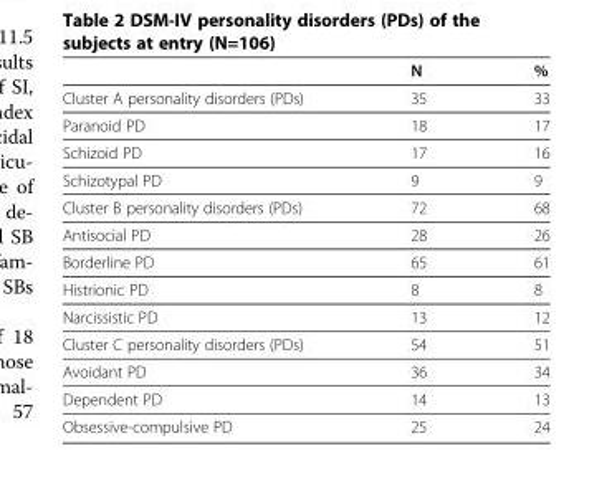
<table><thead><tr><td></td><td>N</td><td>%</td></tr></thead><tbody><tr><td>Cluster A personality disorders (PDs)</td><td>35</td><td>33</td></tr><tr><td>Paranoid PD</td><td>18</td><td>17</td></tr><tr><td>Schizoid PD</td><td>17</td><td>16</td></tr><tr><td>Schizotypal PD</td><td>9</td><td>9</td></tr><tr><td>Cluster B personality disorders (PDs)</td><td>72</td><td>68</td></tr><tr><td>Antisocial PD</td><td>28</td><td>26</td></tr><tr><td>Borderline PD</td><td>65</td><td>61</td></tr><tr><td>Histrionic PD</td><td>8</td><td>8</td></tr><tr><td>Narcissistic PD</td><td>13</td><td>12</td></tr><tr><td>Cluster C personality disorders (PDs)</td><td>54</td><td>51</td></tr><tr><td>Avoidant PD</td><td>36</td><td>34</td></tr><tr><td>Dependent PD</td><td>14</td><td>13</td></tr><tr><td>Obsessive-compulsive PD</td><td>25</td><td>24</td></tr></tbody></table>